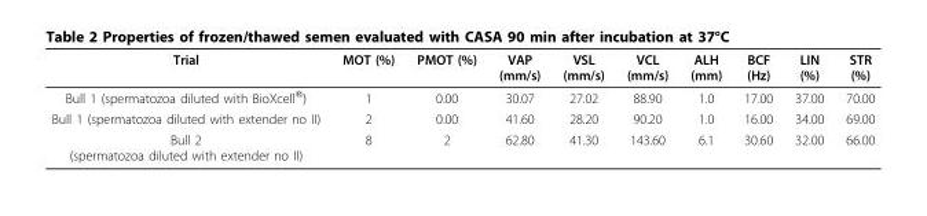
<table><thead><tr><td>Trial</td><td>MOT (%)</td><td>PMOT (%)</td><td>VAP (mm/s)</td><td>VSL (mm/s)</td><td>VCL (mm/s)</td><td>ALH (mm)</td><td>BCF (Hz)</td><td>LIN (%)</td><td>STR (%)</td></tr></thead><tbody><tr><td>Bull 1 (spermatozoa diluted with BioXcell<sup>®</sup>)</td><td>1</td><td>0.00</td><td>30.07</td><td>27.02</td><td>88.90</td><td>1.0</td><td>17.00</td><td>37.00</td><td>70.00</td></tr><tr><td>Bull 1 (spermatozoa diluted with extender no II)</td><td>2</td><td>0.00</td><td>41.60</td><td>28.20</td><td>90.20</td><td>1.0</td><td>16.00</td><td>34.00</td><td>69.00</td></tr><tr><td>Bull 2 (spermatozoa diluted with extender no II)</td><td>8</td><td>2</td><td>62.80</td><td>41.30</td><td>143.60</td><td>6.1</td><td>30.60</td><td>32.00</td><td>66.00</td></tr></tbody></table>